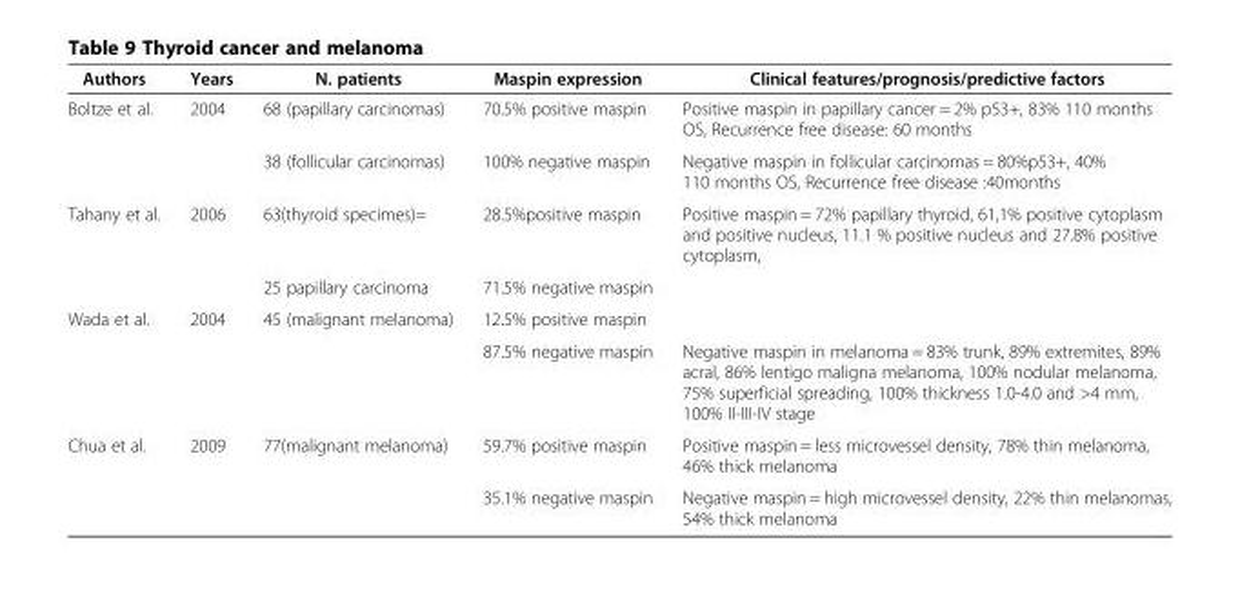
<table><thead><tr><td>Authors</td><td>Years</td><td>N. patients</td><td>Maspin expression</td><td>Clinical features/prognosis/predictive factors</td></tr></thead><tbody><tr><td rowspan="2">Boltze et al.</td><td>2004</td><td>68 (papillary carcinomas)</td><td>70.5% positive maspin</td><td>Positive maspin in papillary cancer = 2% p53+, 83% 110 months OS, Recurrence free disease: 60 months</td></tr><tr><td></td><td>38 (follicular carcinomas)</td><td>100% negative maspin</td><td>Negative maspin in follicular carcinomas = 80%p53+, 40% 110 months OS, Recurrence free disease :40months</td></tr><tr><td rowspan="2">Tahany et al.</td><td>2006</td><td>63(thyroid specimes)=</td><td>28.5%positive maspin</td><td>Positive maspin = 72% papillary thyroid, 61,1% positive cytoplasm and positive nucleus, 11.1 % positive nucleus and 27.8% positive cytoplasm,</td></tr><tr><td></td><td>25 papillary carcinoma</td><td>71.5% negative maspin</td><td></td></tr><tr><td rowspan="2">Wada et al.</td><td>2004</td><td>45 (malignant melanoma)</td><td>12.5% positive maspin</td><td></td></tr><tr><td></td><td></td><td>87.5% negative maspin</td><td>Negative maspin in melanoma = 83% trunk, 89% extremites, 89% acral, 86% lentigo maligna melanoma, 100% nodular melanoma, 75% superficial spreading, 100% thickness 1.0-4.0 and &gt;4 mm, 100% II-III-IV stage</td></tr><tr><td rowspan="2">Chua et al.</td><td>2009</td><td>77(malignant melanoma)</td><td>59.7% positive maspin</td><td>Positive maspin = less microvessel density, 78% thin melanoma, 46% thick melanoma</td></tr><tr><td></td><td></td><td>35.1% negative maspin</td><td>Negative maspin = high microvessel density, 22% thin melanomas, 54% thick melanoma</td></tr></tbody></table>